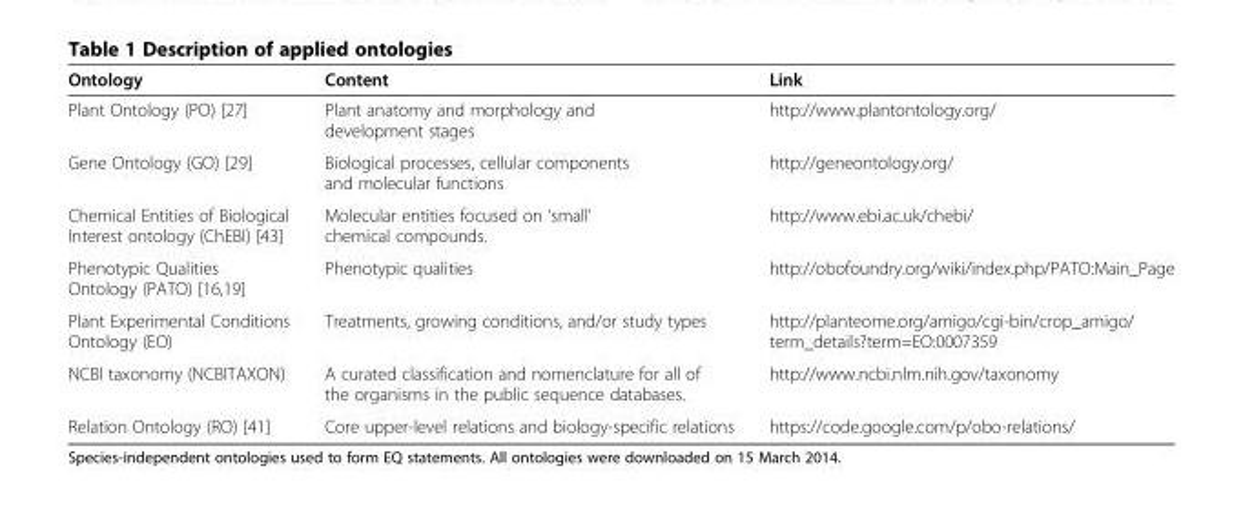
<table><thead><tr><td>Ontology</td><td>Content</td><td>Link</td></tr></thead><tbody><tr><td>Plant Ontology (PO) [27]</td><td>Plant anatomy and morphology and development stages</td><td>http://www.plantontology.org/</td></tr><tr><td>Gene Ontology (GO) [29]</td><td>Biological processes, cellular components and molecular functions</td><td>http://geneontology.org/</td></tr><tr><td>Chemical Entities of Biological Interest ontology (ChEBI) [43]</td><td>Molecular entities focused on ‘small’ chemical compounds.</td><td>http://www.ebi.ac.uk/chebi/</td></tr><tr><td>Phenotypic Qualities Ontology (PATO) [16,19]</td><td>Phenotypic qualities</td><td>http://obofoundry.org/wiki/index.php/PATO:Main_Page</td></tr><tr><td>Plant Experimental Conditions Ontology (EO)</td><td>Treatments, growing conditions, and/or study types</td><td>http://planteome.org/amigo/cgi-bin/crop_amigo/ term_details?term=EO:0007359</td></tr><tr><td>NCBI taxonomy (NCBITAXON)</td><td>A curated classification and nomenclature for all of the organisms in the public sequence databases.</td><td>http://www.ncbi.nlm.nih.gov/taxonomy</td></tr><tr><td>Relation Ontology (RO) [41]</td><td>Core upper-level relations and biology-specific relations</td><td>https://code.google.com/p/obo-relations/</td></tr></tbody></table>